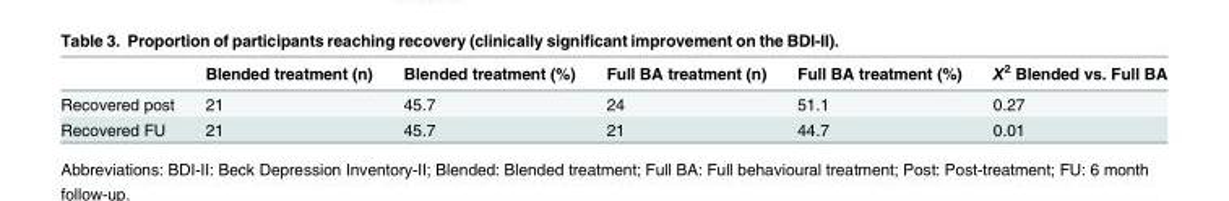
<table><thead><tr><td></td><td>Blended treatment (n)</td><td>Blended treatment (%)</td><td>Full BA treatment (n)</td><td>Full BA treatment (%)</td><td>X<sup>2</sup> Blended vs. Full BA</td></tr></thead><tbody><tr><td>Recovered post</td><td>21</td><td>45.7</td><td>24</td><td>51.1</td><td>0.27</td></tr><tr><td>Recovered FU</td><td>21</td><td>45.7</td><td>21</td><td>44.7</td><td>0.01</td></tr></tbody></table>